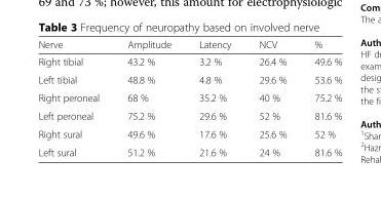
<table><thead><tr><td>Nerve</td><td>Amplitude</td><td>Latency</td><td>NCV</td><td>%</td></tr></thead><tbody><tr><td>Right tibial</td><td>43.2 %</td><td>3.2 %</td><td>26.4 %</td><td>49.6 %</td></tr><tr><td>Left tibial</td><td>48.8 %</td><td>4.8 %</td><td>29.6 %</td><td>53.6 %</td></tr><tr><td>Right peroneal</td><td>68 %</td><td>35.2 %</td><td>40 %</td><td>75.2 %</td></tr><tr><td>Left peroneal</td><td>75.2 %</td><td>29.6 %</td><td>52 %</td><td>81.6 %</td></tr><tr><td>Right sural</td><td>49.6 %</td><td>17.6 %</td><td>25.6 %</td><td>52 %</td></tr><tr><td>Left sural</td><td>51.2 %</td><td>21.6 %</td><td>24 %</td><td>81.6 %</td></tr></tbody></table>